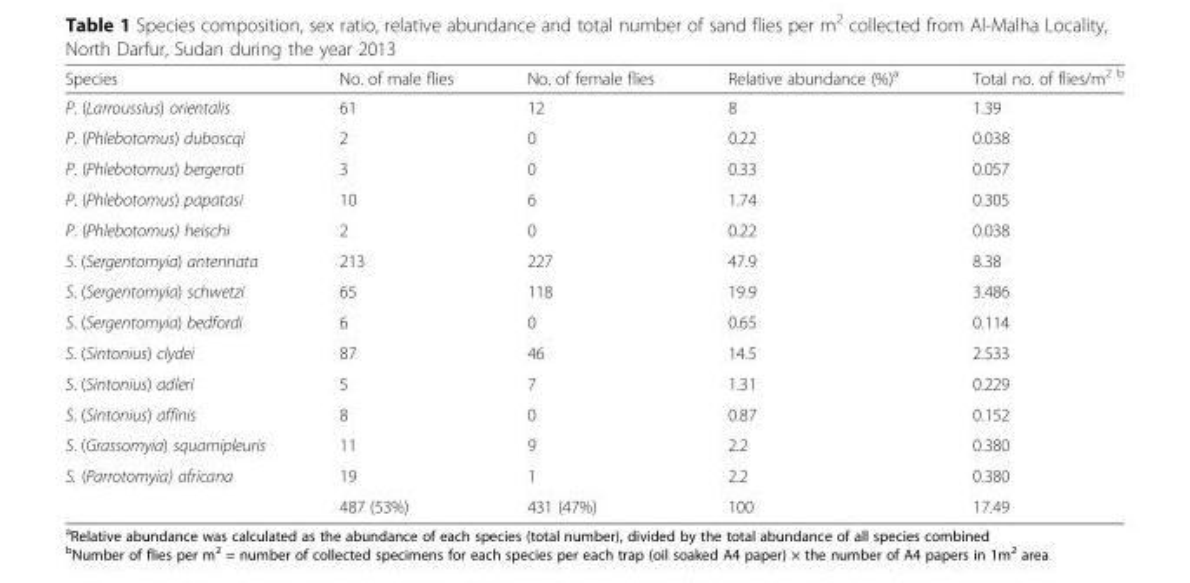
<table><thead><tr><td>Species</td><td>No. of male flies</td><td>No. of female flies</td><td>Relative abundance (%)<sup>a</sup></td><td>Total no. of flies/m<sup>2 b</sup></td></tr></thead><tbody><tr><td>P. (Larroussius) orientalis</td><td>61</td><td>12</td><td>8</td><td>1.39</td></tr><tr><td>P. (Phlebotomus) duboscqi</td><td>2</td><td>0</td><td>0.22</td><td>0.038</td></tr><tr><td>P. (Phlebotomus) bergeroti</td><td>3</td><td>0</td><td>0.33</td><td>0.057</td></tr><tr><td>P. (Phlebotomus) papatasi</td><td>10</td><td>6</td><td>1.74</td><td>0.305</td></tr><tr><td>P. (Phlebotomus) heischi</td><td>2</td><td>0</td><td>0.22</td><td>0.038</td></tr><tr><td>S. (Sergentomyia) antennata</td><td>213</td><td>227</td><td>47.9</td><td>8.38</td></tr><tr><td>S. (Sergentomyia) schwetzi</td><td>65</td><td>118</td><td>19.9</td><td>3.486</td></tr><tr><td>S. (Sergentomyia) bedfordi</td><td>6</td><td>0</td><td>0.65</td><td>0.114</td></tr><tr><td>S. (Sintonius) clydei</td><td>87</td><td>46</td><td>14.5</td><td>2.533</td></tr><tr><td>S. (Sintonius) adleri</td><td>5</td><td>7</td><td>1.31</td><td>0.229</td></tr><tr><td>S. (Sintonius) affinis</td><td>8</td><td>0</td><td>0.87</td><td>0.152</td></tr><tr><td>S. (Grassomyia) squamipleuris</td><td>11</td><td>9</td><td>2.2</td><td>0.380</td></tr><tr><td rowspan="2">S. (Parrotomyia) africana</td><td>19</td><td>1</td><td>2.2</td><td>0.380</td></tr><tr><td>487 (53%)</td><td>431 (47%)</td><td>100</td><td>17.49</td></tr></tbody></table>